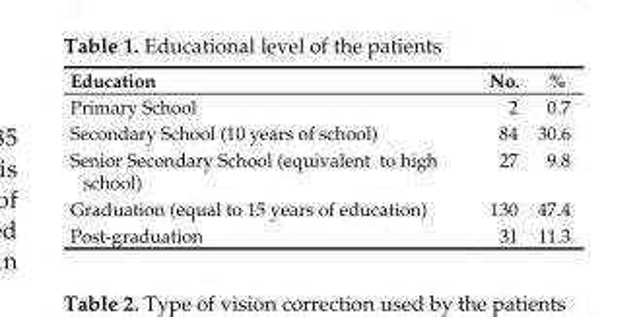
<table><thead><tr><td>Education</td><td>No.</td><td>%</td></tr></thead><tbody><tr><td>Primary School</td><td>2</td><td>0.7</td></tr><tr><td>Secondary School (10 years of school)</td><td>84</td><td>30.6</td></tr><tr><td>Senior Secondary School (equivalent to high school)</td><td>27</td><td>9.8</td></tr><tr><td>Graduation (equal to 15 years of education)</td><td>130</td><td>47.4</td></tr><tr><td>Post-graduation</td><td>31</td><td>11.3</td></tr></tbody></table>